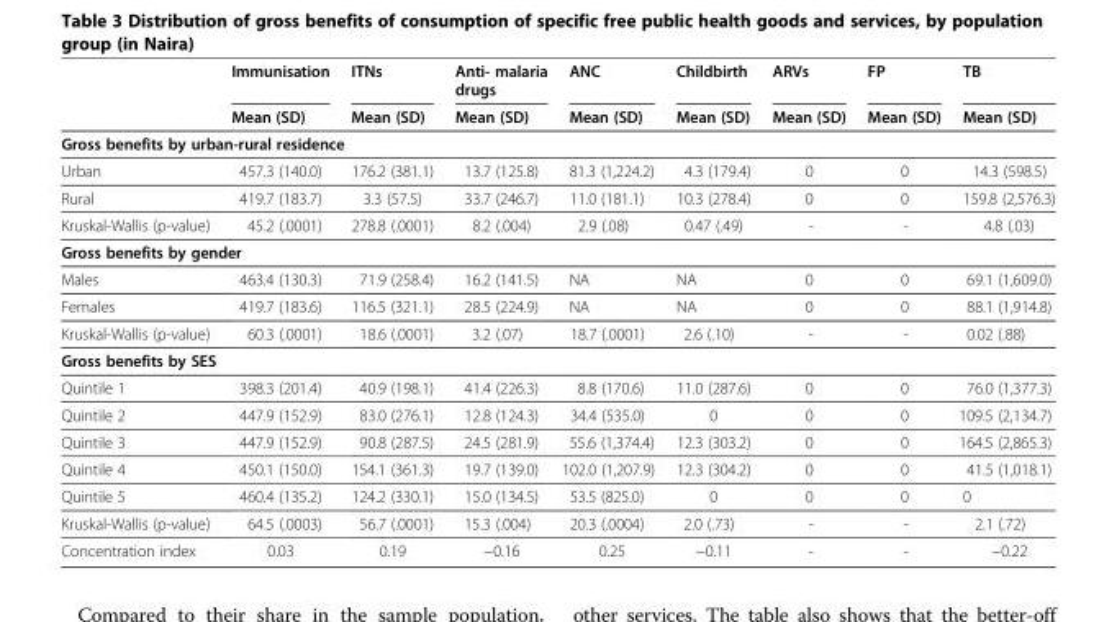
<table><thead><tr><td rowspan="2"></td><td rowspan="2">Immunisation Mean (SD)</td><td rowspan="2">ITNs Mean (SD)</td><td rowspan="2">Anti- malaria drugs Mean (SD)</td><td rowspan="2">ANC Mean (SD)</td><td rowspan="2">Childbirth Mean (SD)</td><td rowspan="2">ARVs Mean (SD)</td><td rowspan="2">FP Mean (SD)</td><td rowspan="2">TB Mean (SD)</td></tr><tr></tr></thead><tbody><tr><td colspan="9">Gross benefits by urban-rural residence</td></tr><tr><td>Urban</td><td>457.3 (140.0)</td><td>176.2 (381.1)</td><td>13.7 (125.8)</td><td>81.3 (1,224.2)</td><td>4.3 (179.4)</td><td>0</td><td>0</td><td>14.3 (598.5)</td></tr><tr><td>Rural</td><td>419.7 (183.7)</td><td>3.3 (57.5)</td><td>33.7 (246.7)</td><td>11.0 (181.1)</td><td>10.3 (278.4)</td><td>0</td><td>0</td><td>159.8 (2,576.3)</td></tr><tr><td>Kruskal-Wallis (p-value)</td><td>45.2 (.0001)</td><td>278.8 (.0001)</td><td>8.2 (.004)</td><td>2.9 (.08)</td><td>0.47 (.49)</td><td>-</td><td>-</td><td>4.8 (.03)</td></tr><tr><td colspan="9">Gross benefits by gender</td></tr><tr><td>Males</td><td>463.4 (130.3)</td><td>71.9 (258.4)</td><td>16.2 (141.5)</td><td>NA</td><td>NA</td><td>0</td><td>0</td><td>69.1 (1,609.0)</td></tr><tr><td>Females</td><td>419.7 (183.6)</td><td>116.5 (321.1)</td><td>28.5 (224.9)</td><td>NA</td><td>NA</td><td>0</td><td>0</td><td>88.1 (1,914.8)</td></tr><tr><td>Kruskal-Wallis (p-value)</td><td>60.3 (.0001)</td><td>18.6 (.0001)</td><td>3.2 (.07)</td><td>18.7 (.0001)</td><td>2.6 (.10)</td><td>-</td><td>-</td><td>0.02 (.88)</td></tr><tr><td colspan="9">Gross benefits by SES</td></tr><tr><td>Quintile 1</td><td>398.3 (201.4)</td><td>40.9 (198.1)</td><td>41.4 (226.3)</td><td>8.8 (170.6)</td><td>11.0 (287.6)</td><td>0</td><td>0</td><td>76.0 (1,377.3)</td></tr><tr><td>Quintile 2</td><td>447.9 (152.9)</td><td>83.0 (276.1)</td><td>12.8 (124.3)</td><td>34.4 (535.0)</td><td>0</td><td>0</td><td>0</td><td>109.5 (2,134.7)</td></tr><tr><td>Quintile 3</td><td>447.9 (152.9)</td><td>90.8 (287.5)</td><td>24.5 (281.9)</td><td>55.6 (1,374.4)</td><td>12.3 (303.2)</td><td>0</td><td>0</td><td>164.5 (2,865.3)</td></tr><tr><td>Quintile 4</td><td>450.1 (150.0)</td><td>154.1 (361.3)</td><td>19.7 (139.0)</td><td>102.0 (1,207.9)</td><td>12.3 (304.2)</td><td>0</td><td>0</td><td>41.5 (1,018.1)</td></tr><tr><td>Quintile 5</td><td>460.4 (135.2)</td><td>124.2 (330.1)</td><td>15.0 (134.5)</td><td>53.5 (825.0)</td><td>0</td><td>0</td><td>0</td><td>0</td></tr><tr><td>Kruskal-Wallis (p-value)</td><td>64.5 (.0003)</td><td>56.7 (.0001)</td><td>15.3 (.004)</td><td>20.3 (.0004)</td><td>2.0 (.73)</td><td>-</td><td>-</td><td>2.1 (.72)</td></tr><tr><td>Concentration index</td><td>0.03</td><td>0.19</td><td>−0.16</td><td>0.25</td><td>−0.11</td><td>-</td><td>-</td><td>−0.22</td></tr></tbody></table>